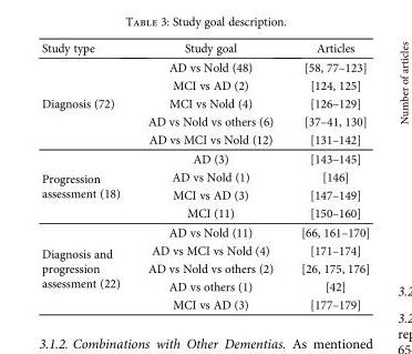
<table><thead><tr><td>Study type</td><td>Study goal</td><td>Articles</td></tr></thead><tbody><tr><td rowspan="5">Diagnosis (72)</td><td>AD vs Nold (48)</td><td>[58, 77–123]</td></tr><tr><td>MCI vs AD (2)</td><td>[124, 125]</td></tr><tr><td>MCI vs Nold (4)</td><td>[126–129]</td></tr><tr><td>AD vs Nold vs others (6)</td><td>[37–41, 130]</td></tr><tr><td>AD vs MCI vs Nold (12)</td><td>[131–142]</td></tr><tr><td rowspan="4">Progression assessment (18)</td><td>AD (3)</td><td>[143–145]</td></tr><tr><td>AD vs Nold (1)</td><td>[146]</td></tr><tr><td>MCI vs AD (3)</td><td>[147–149]</td></tr><tr><td>MCI (11)</td><td>[150–160]</td></tr><tr><td rowspan="5">Diagnosis and progression assessment (22)</td><td>AD vs Nold (11)</td><td>[66, 161–170]</td></tr><tr><td>AD vs MCI vs Nold (4)</td><td>[171–174]</td></tr><tr><td>AD vs Nold vs others (2)</td><td>[26, 175, 176]</td></tr><tr><td>AD vs others (1)</td><td>[42]</td></tr><tr><td>MCI vs AD (3)</td><td>[177–179]</td></tr></tbody></table>